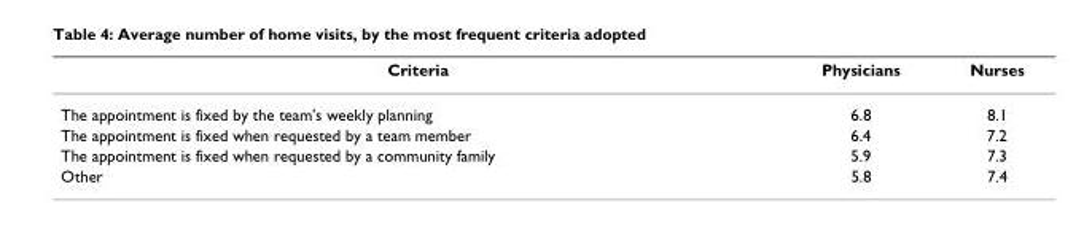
<table><thead><tr><td>Criteria</td><td>Physicians</td><td>Nurses</td></tr></thead><tbody><tr><td>The appointment is fixed by the team&#x27;s weekly planning</td><td>6.8</td><td>8.1</td></tr><tr><td>The appointment is fixed when requested by a team member</td><td>6.4</td><td>7.2</td></tr><tr><td>The appointment is fixed when requested by a community family</td><td>5.9</td><td>7.3</td></tr><tr><td>Other</td><td>5.8</td><td>7.4</td></tr></tbody></table>